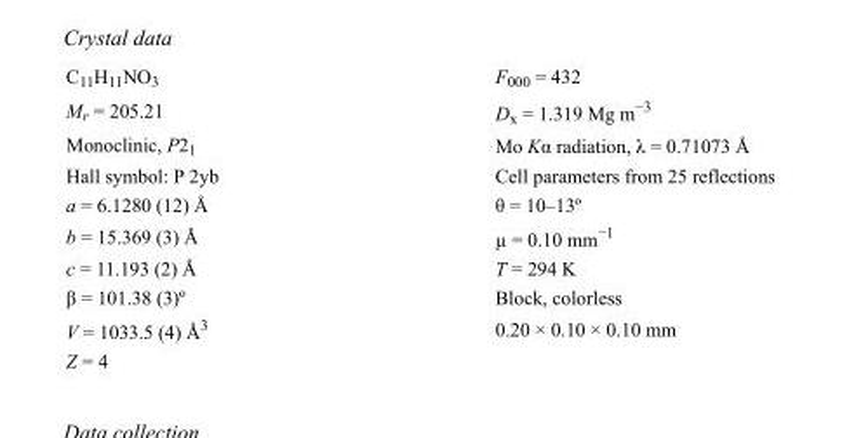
<table><tbody><tr><td>C<sub>11</sub>H<sub>11</sub>NO<sub>3</sub></td><td>F000 = 432</td></tr><tr><td>M<sub>r</sub> = 205.21</td><td>D<sub>x</sub> = 1.319 Mg m<sup>−3</sup></td></tr><tr><td>Monoclinic, P2<sub>1</sub></td><td>Mo Kα radiation, λ = 0.71073 Å</td></tr><tr><td>Hall symbol: P 2yb</td><td>Cell parameters from 25 reflections</td></tr><tr><td>a = 6.1280 (12) Å</td><td>θ = 10–13º</td></tr><tr><td>b = 15.369 (3) Å</td><td>µ = 0.10 mm<sup>−1</sup></td></tr><tr><td>c = 11.193 (2) Å</td><td>T = 294 K</td></tr><tr><td>β = 101.38 (3)º</td><td>Block, colorless</td></tr><tr><td>V = 1033.5 (4) Å<sup>3</sup></td><td>0.20 × 0.10 × 0.10 mm</td></tr><tr><td>Z = 4</td><td></td></tr></tbody></table>